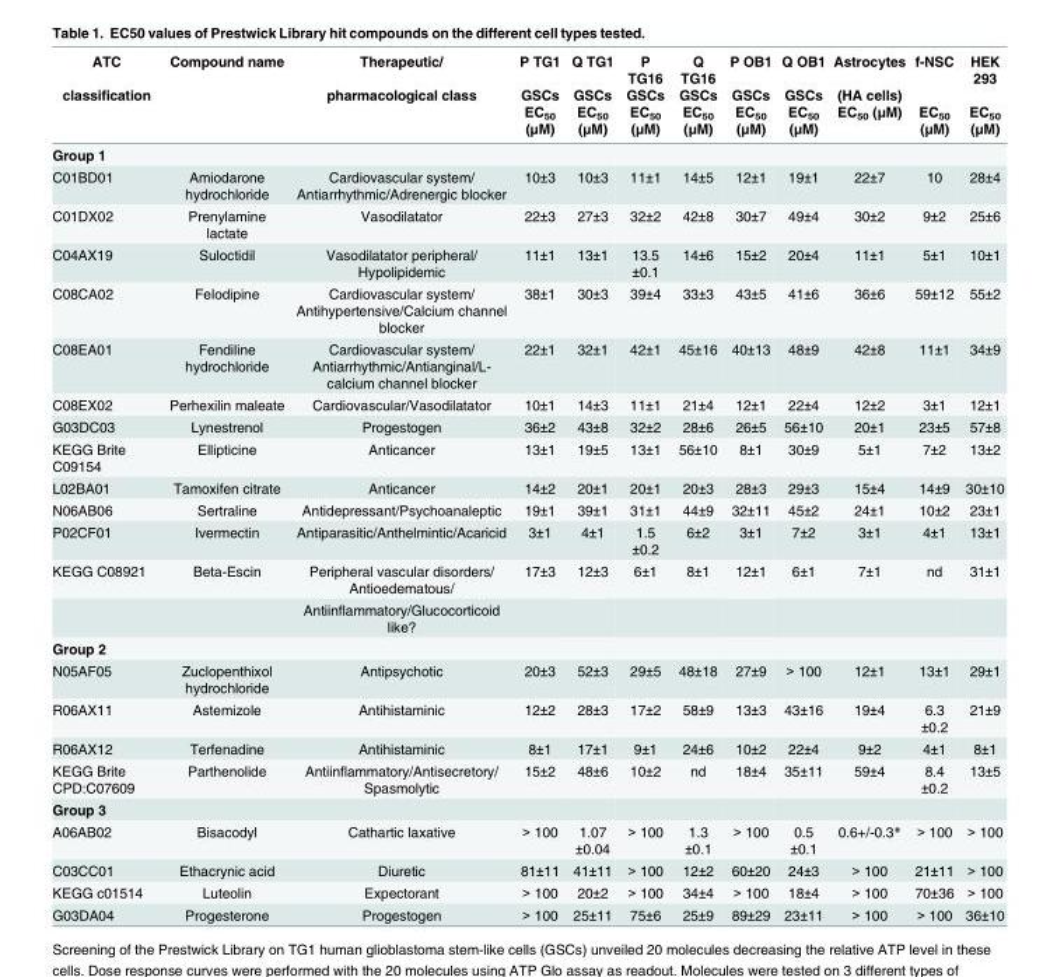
<table><thead><tr><td rowspan="3">ATC classification</td><td rowspan="3">Compound name</td><td rowspan="3">Therapeutic/ pharmacological class</td><td rowspan="3">P TG1 GSCs EC<sub>50</sub> (μM)</td><td rowspan="3">Q TG1 GSCs EC<sub>50</sub> (μM)</td><td rowspan="3">P TG16 GSCs EC<sub>50</sub> (μM)</td><td rowspan="3">Q TG16 GSCs EC<sub>50</sub> (μM)</td><td rowspan="3">P OB1 GSCs EC<sub>50</sub> (μM)</td><td rowspan="3">Q OB1 GSCs EC<sub>50</sub> (μM)</td><td rowspan="3">Astrocytes (HA cells) EC<sub>50</sub> (μM)</td><td rowspan="3">f-NSC EC<sub>50</sub> (μM)</td><td rowspan="3">HEK 293 EC<sub>50</sub> (μM)</td></tr><tr></tr><tr></tr></thead><tbody><tr><td colspan="12">Group 1</td></tr><tr><td>C01BD01</td><td>Amiodarone hydrochloride</td><td>Cardiovascular system/ Antiarrhythmic/Adrenergic blocker</td><td>10±3</td><td>10±3</td><td>11±1</td><td>14±5</td><td>12±1</td><td>19±1</td><td>22±7</td><td>10</td><td>28±4</td></tr><tr><td>C01DX02</td><td>Prenylamine lactate</td><td>Vasodilatator</td><td>22±3</td><td>27±3</td><td>32±2</td><td>42±8</td><td>30±7</td><td>49±4</td><td>30±2</td><td>9±2</td><td>25±6</td></tr><tr><td>C04AX19</td><td>Suloctidil</td><td>Vasodilatator peripheral/ Hypolipidemic</td><td>11±1</td><td>13±1</td><td>13.5 ±0.1</td><td>14±6</td><td>15±2</td><td>20±4</td><td>11±1</td><td>5±1</td><td>10±1</td></tr><tr><td>C08CA02</td><td>Felodipine</td><td>Cardiovascular system/ Antihypertensive/Calcium channel blocker</td><td>38±1</td><td>30±3</td><td>39±4</td><td>33±3</td><td>43±5</td><td>41±6</td><td>36±6</td><td>59±12</td><td>55±2</td></tr><tr><td>C08EA01</td><td>Fendiline hydrochloride</td><td>Cardiovascular system/ Antiarrhythmic/Antianginal/L- calcium channel blocker</td><td>22±1</td><td>32±1</td><td>42±1</td><td>45±16</td><td>40±13</td><td>48±9</td><td>42±8</td><td>11±1</td><td>34±9</td></tr><tr><td>C08EX02</td><td>Perhexilin maleate</td><td>Cardiovascular/Vasodilatator</td><td>10±1</td><td>14±3</td><td>11±1</td><td>21±4</td><td>12±1</td><td>22±4</td><td>12±2</td><td>3±1</td><td>12±1</td></tr><tr><td>G03DC03</td><td>Lynestrenol</td><td>Progestogen</td><td>36±2</td><td>43±8</td><td>32±2</td><td>28±6</td><td>26±5</td><td>56±10</td><td>20±1</td><td>23±5</td><td>57±8</td></tr><tr><td>KEGG Brite C09154</td><td>Ellipticine</td><td>Anticancer</td><td>13±1</td><td>19±5</td><td>13±1</td><td>56±10</td><td>8±1</td><td>30±9</td><td>5±1</td><td>7±2</td><td>13±2</td></tr><tr><td>L02BA01</td><td>Tamoxifen citrate</td><td>Anticancer</td><td>14±2</td><td>20±1</td><td>20±1</td><td>20±3</td><td>28±3</td><td>29±3</td><td>15±4</td><td>14±9</td><td>30±10</td></tr><tr><td>N06AB06</td><td>Sertraline</td><td>Antidepressant/Psychoanaleptic</td><td>19±1</td><td>39±1</td><td>31±1</td><td>44±9</td><td>32±11</td><td>45±2</td><td>24±1</td><td>10±2</td><td>23±1</td></tr><tr><td>P02CF01</td><td>Ivermectin</td><td>Antiparasitic/Anthelmintic/Acaricid</td><td>3±1</td><td>4±1</td><td>1.5 ±0.2</td><td>6±2</td><td>3±1</td><td>7±2</td><td>3±1</td><td>4±1</td><td>13±1</td></tr><tr><td rowspan="2">KEGG C08921</td><td>Beta-Escin</td><td>Peripheral vascular disorders/ Antioedematous/</td><td>17±3</td><td>12±3</td><td>6±1</td><td>8±1</td><td>12±1</td><td>6±1</td><td>7±1</td><td>nd</td><td>31±1</td></tr><tr><td></td><td>Antiinflammatory/Glucocorticoid like?</td><td></td><td></td><td></td><td></td><td></td><td></td><td></td><td></td><td></td></tr><tr><td colspan="12">Group 2</td></tr><tr><td>N05AF05</td><td>Zuclopenthixol hydrochloride</td><td>Antipsychotic</td><td>20±3</td><td>52±3</td><td>29±5</td><td>48±18</td><td>27±9</td><td>&gt; 100</td><td>12±1</td><td>13±1</td><td>29±1</td></tr><tr><td>R06AX11</td><td>Astemizole</td><td>Antihistaminic</td><td>12±2</td><td>28±3</td><td>17±2</td><td>58±9</td><td>13±3</td><td>43±16</td><td>19±4</td><td>6.3 ±0.2</td><td>21±9</td></tr><tr><td>R06AX12</td><td>Terfenadine</td><td>Antihistaminic</td><td>8±1</td><td>17±1</td><td>9±1</td><td>24±6</td><td>10±2</td><td>22±4</td><td>9±2</td><td>4±1</td><td>8±1</td></tr><tr><td>KEGG Brite CPD:C07609</td><td>Parthenolide</td><td>Antiinflammatory/Antisecretory/ Spasmolytic</td><td>15±2</td><td>48±6</td><td>10±2</td><td>nd</td><td>18±4</td><td>35±11</td><td>59±4</td><td>8.4 ±0.2</td><td>13±5</td></tr><tr><td colspan="12">Group 3</td></tr><tr><td>A06AB02</td><td>Bisacodyl</td><td>Cathartic laxative</td><td>&gt; 100</td><td>1.07 ±0.04</td><td>&gt; 100</td><td>1.3 ±0.1</td><td>&gt; 100</td><td>0.5 ±0.1</td><td>0.6+/-0.3*</td><td>&gt; 100</td><td>&gt; 100</td></tr><tr><td>C03CC01</td><td>Ethacrynic acid</td><td>Diuretic</td><td>81±11</td><td>41±11</td><td>&gt; 100</td><td>12±2</td><td>60±20</td><td>24±3</td><td>&gt; 100</td><td>21±11</td><td>&gt; 100</td></tr><tr><td>KEGG c01514</td><td>Luteolin</td><td>Expectorant</td><td>&gt; 100</td><td>20±2</td><td>&gt; 100</td><td>34±4</td><td>&gt; 100</td><td>18±4</td><td>&gt; 100</td><td>70±36</td><td>&gt; 100</td></tr><tr><td>G03DA04</td><td>Progesterone</td><td>Progestogen</td><td>&gt; 100</td><td>25±11</td><td>75±6</td><td>25±9</td><td>89±29</td><td>23±11</td><td>&gt; 100</td><td>&gt; 100</td><td>36±10</td></tr></tbody></table>